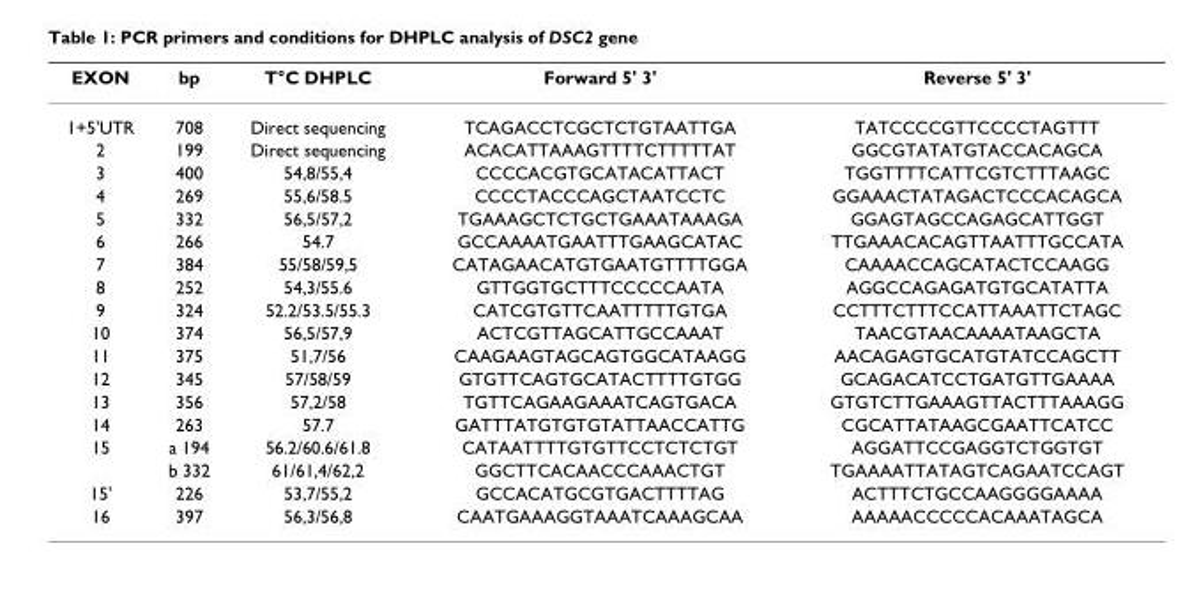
<table><thead><tr><td>EXON</td><td>bp</td><td>T°C DHPLC</td><td>Forward 5&#x27; 3&#x27;</td><td>Reverse 5&#x27; 3&#x27;</td></tr></thead><tbody><tr><td>1+5&#x27;UTR</td><td>708</td><td>Direct sequencing</td><td>TCAGACCTCGCTCTGTAATTGA</td><td>TATCCCCGTTCCCCTAGTTT</td></tr><tr><td>2</td><td>199</td><td>Direct sequencing</td><td>ACACATTAAAGTTTTCTTTTTAT</td><td>GGCGTATATGTACCACAGCA</td></tr><tr><td>3</td><td>400</td><td>54,8/55,4</td><td>CCCCACGTGCATACATTACT</td><td>TGGTTTTCATTCGTCTTTAAGC</td></tr><tr><td>4</td><td>269</td><td>55,6/58.5</td><td>CCCCTACCCAGCTAATCCTC</td><td>GGAAACTATAGACTCCCACAGCA</td></tr><tr><td>5</td><td>332</td><td>56,5/57,2</td><td>TGAAAGCTCTGCTGAAATAAAGA</td><td>GGAGTAGCCAGAGCATTGGT</td></tr><tr><td>6</td><td>266</td><td>54.7</td><td>GCCAAAATGAATTTGAAGCATAC</td><td>TTGAAACACAGTTAATTTGCCATA</td></tr><tr><td>7</td><td>384</td><td>55/58/59,5</td><td>CATAGAACATGTGAATGTTTTGGA</td><td>CAAAACCAGCATACTCCAAGG</td></tr><tr><td>8</td><td>252</td><td>54,3/55.6</td><td>GTTGGTGCTTTCCCCCAATA</td><td>AGGCCAGAGATGTGCATATTA</td></tr><tr><td>9</td><td>324</td><td>52.2/53.5/55.3</td><td>CATCGTGTTCAATTTTTGTGA</td><td>CCTTTCTTTCCATTAAATTCTAGC</td></tr><tr><td>10</td><td>374</td><td>56,5/57,9</td><td>ACTCGTTAGCATTGCCAAAT</td><td>TAACGTAACAAAATAAGCTA</td></tr><tr><td>11</td><td>375</td><td>51,7/56</td><td>CAAGAAGTAGCAGTGGCATAAGG</td><td>AACAGAGTGCATGTATCCAGCTT</td></tr><tr><td>12</td><td>345</td><td>57/58/59</td><td>GTGTTCAGTGCATACTTTTGTGG</td><td>GCAGACATCCTGATGTTGAAAA</td></tr><tr><td>13</td><td>356</td><td>57,2/58</td><td>TGTTCAGAAGAAATCAGTGACA</td><td>GTGTCTTGAAAGTTACTTTAAAGG</td></tr><tr><td>14</td><td>263</td><td>57.7</td><td>GATTTATGTGTGTATTAACCATTG</td><td>CGCATTATAAGCGAATTCATCC</td></tr><tr><td rowspan="2">15</td><td>a 194</td><td>56.2/60.6/61.8</td><td>CATAATTTTGTGTTCCTCTCTGT</td><td>AGGATTCCGAGGTCTGGTGT</td></tr><tr><td>b 332</td><td>61/61,4/62,2</td><td>GGCTTCACAACCCAAACTGT</td><td>TGAAAATTATAGTCAGAATCCAGT</td></tr><tr><td>15&#x27;</td><td>226</td><td>53,7/55,2</td><td>GCCACATGCGTGACTTTTAG</td><td>ACTTTCTGCCAAGGGGAAAA</td></tr><tr><td>16</td><td>397</td><td>56,3/56,8</td><td>CAATGAAAGGTAAATCAAAGCAA</td><td>AAAAACCCCCACAAATAGCA</td></tr></tbody></table>